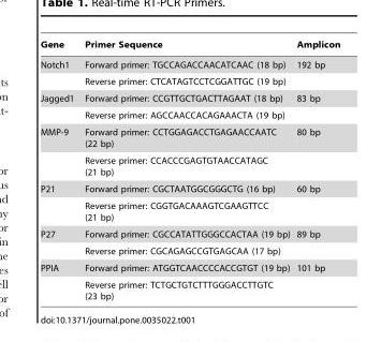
<table><thead><tr><td>Gene</td><td>Primer Sequence</td><td>Amplicon</td></tr></thead><tbody><tr><td rowspan="2">Notch1</td><td>Forward primer: TGCCAGACCAACATCAAC (18 bp)</td><td>192 bp</td></tr><tr><td>Reverse primer: CTCATAGTCCTCGGATTGC (19 bp)</td><td></td></tr><tr><td rowspan="2">Jagged1</td><td>Forward primer: CCGTTGCTGACTTAGAAT (18 bp)</td><td>83 bp</td></tr><tr><td>Reverse primer: AGCCAACCACAGAAACTA (19 bp)</td><td></td></tr><tr><td rowspan="2">MMP-9</td><td>Forward primer: CCTGGAGACCTGAGAACCAATC (22 bp)</td><td>80 bp</td></tr><tr><td>Reverse primer: CCACCCGAGTGTAACCATAGC (21 bp)</td><td></td></tr><tr><td rowspan="2">P21</td><td>Forward primer: CGCTAATGGCGGGCTG (16 bp)</td><td>60 bp</td></tr><tr><td>Reverse primer: CGGTGACAAAGTCGAAGTTCC (21 bp)</td><td></td></tr><tr><td rowspan="2">P27</td><td>Forward primer: CGCCATATTGGGCCACTAA (19 bp)</td><td>89 bp</td></tr><tr><td>Reverse primer: CGCAGAGCCGTGAGCAA (17 bp)</td><td></td></tr><tr><td rowspan="2">PPIA</td><td>Forward primer: ATGGTCAACCCCACCGTGT (19 bp)</td><td>101 bp</td></tr><tr><td>Reverse primer: TCTGCTGTCTTTGGGACCTTGTC (23 bp)</td><td></td></tr></tbody></table>